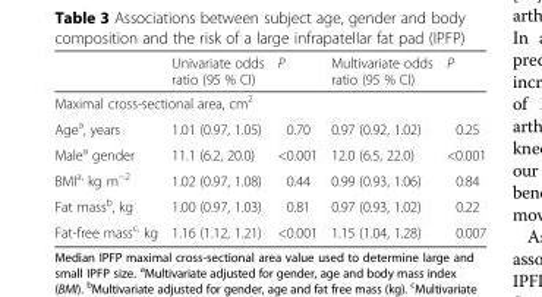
<table><thead><tr><td></td><td>Univariate odds ratio (95 % CI)</td><td>P</td><td>Multivariate odds ratio (95 % CI)</td><td>P</td></tr></thead><tbody><tr><td colspan="5">Maximal cross-sectional area, cm<sup>2</sup></td></tr><tr><td>Age<sup>a</sup>, years</td><td>1.01 (0.97, 1.05)</td><td>0.70</td><td>0.97 (0.92, 1.02)</td><td>0.25</td></tr><tr><td>Male<sup>a</sup> gender</td><td>11.1 (6.2, 20.0)</td><td>&lt;0.001</td><td>12.0 (6.5, 22.0)</td><td>&lt;0.001</td></tr><tr><td>BMI<sup>a,</sup> kg m<sup>−2</sup></td><td>1.02 (0.97, 1.08)</td><td>0.44</td><td>0.99 (0.93, 1.06)</td><td>0.84</td></tr><tr><td>Fat mass<sup>b</sup>, kg</td><td>1.00 (0.97, 1.03)</td><td>0.81</td><td>0.97 (0.93, 1.02)</td><td>0.22</td></tr><tr><td>Fat-free mass<sup>c,</sup> kg</td><td>1.16 (1.12, 1.21)</td><td>&lt;0.001</td><td>1.15 (1.04, 1.28)</td><td>0.007</td></tr></tbody></table>